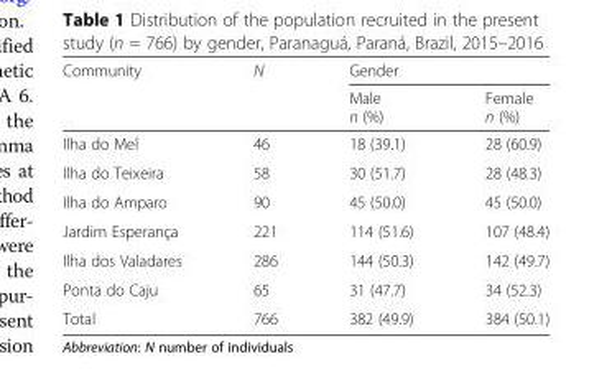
<table><thead><tr><td rowspan="2">Community</td><td rowspan="2">N</td><td colspan="2">Gender</td></tr><tr><td>Male n (%)</td><td>Female n (%)</td></tr></thead><tbody><tr><td>Ilha do Mel</td><td>46</td><td>18 (39.1)</td><td>28 (60.9)</td></tr><tr><td>Ilha do Teixeira</td><td>58</td><td>30 (51.7)</td><td>28 (48.3)</td></tr><tr><td>Ilha do Amparo</td><td>90</td><td>45 (50.0)</td><td>45 (50.0)</td></tr><tr><td>Jardim Esperança</td><td>221</td><td>114 (51.6)</td><td>107 (48.4)</td></tr><tr><td>Ilha dos Valadares</td><td>286</td><td>144 (50.3)</td><td>142 (49.7)</td></tr><tr><td>Ponta do Caju</td><td>65</td><td>31 (47.7)</td><td>34 (52.3)</td></tr><tr><td>Total</td><td>766</td><td>382 (49.9)</td><td>384 (50.1)</td></tr></tbody></table>